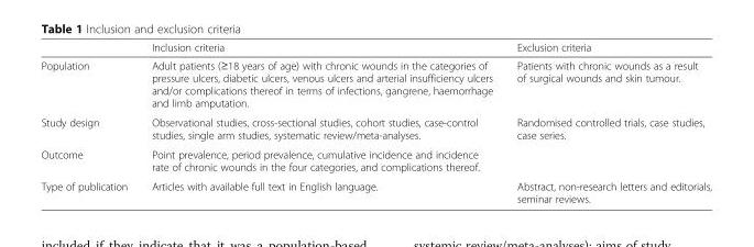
<table><thead><tr><td></td><td>Inclusion criteria</td><td>Exclusion criteria</td></tr></thead><tbody><tr><td>Population</td><td>Adult patients (≥18 years of age) with chronic wounds in the categories of pressure ulcers, diabetic ulcers, venous ulcers and arterial insufficiency ulcers and/or complications thereof in terms of infections, gangrene, haemorrhage and limb amputation.</td><td>Patients with chronic wounds as a result of surgical wounds and skin tumour.</td></tr><tr><td>Study design</td><td>Observational studies, cross-sectional studies, cohort studies, case-control studies, single arm studies, systematic review/meta-analyses.</td><td>Randomised controlled trials, case studies, case series.</td></tr><tr><td>Outcome</td><td>Point prevalence, period prevalence, cumulative incidence and incidence rate of chronic wounds in the four categories, and complications thereof.</td><td></td></tr><tr><td>Type of publication</td><td>Articles with available full text in English language.</td><td>Abstract, non-research letters and editorials, seminar reviews.</td></tr></tbody></table>